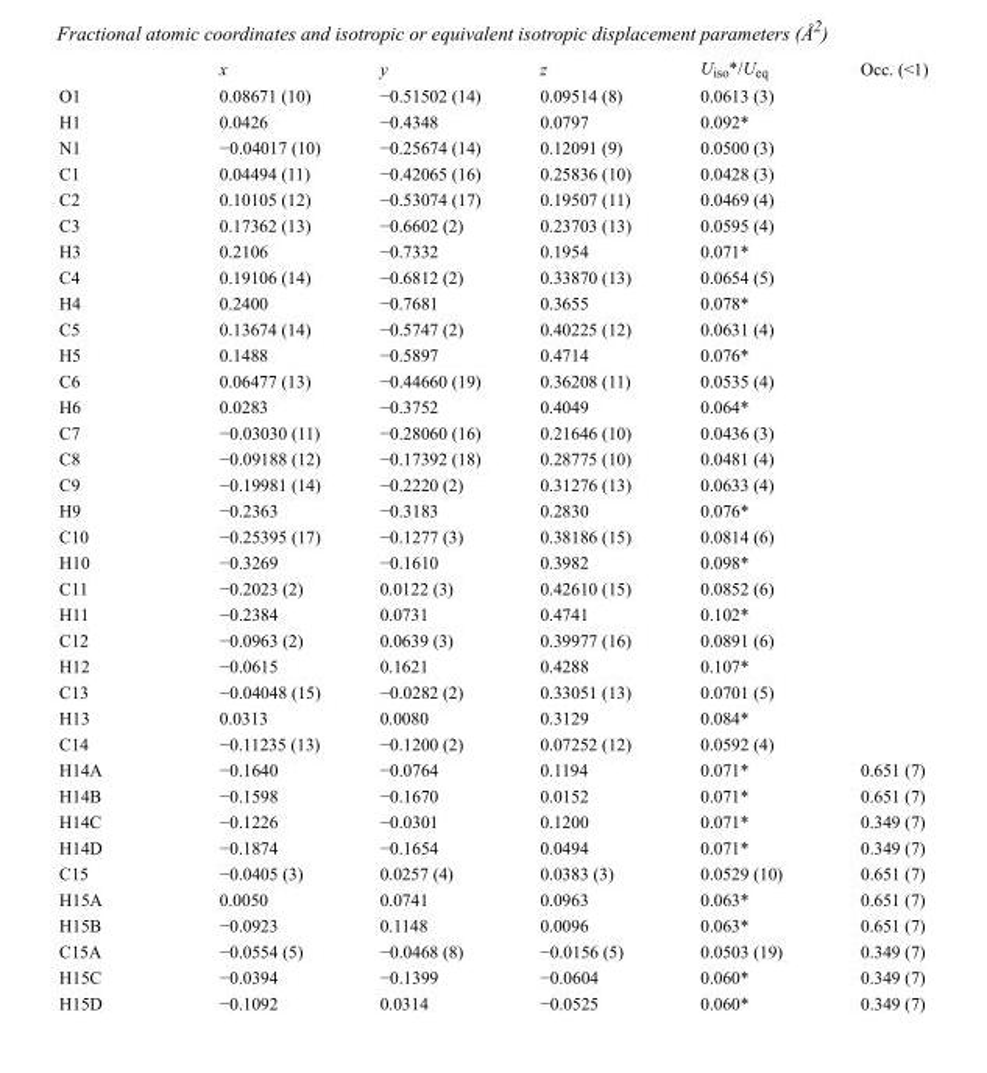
<table><thead><tr><td></td><td>x</td><td>y</td><td>z</td><td>U<sub>iso</sub>*/U<sub>eq</sub></td><td>Occ. (&lt;1)</td></tr></thead><tbody><tr><td>O1</td><td>0.08671 (10)</td><td>−0.51502 (14)</td><td>0.09514 (8)</td><td>0.0613 (3)</td><td></td></tr><tr><td>H1</td><td>0.0426</td><td>−0.4348</td><td>0.0797</td><td>0.092*</td><td></td></tr><tr><td>N1</td><td>−0.04017 (10)</td><td>−0.25674 (14)</td><td>0.12091 (9)</td><td>0.0500 (3)</td><td></td></tr><tr><td>C1</td><td>0.04494 (11)</td><td>−0.42065 (16)</td><td>0.25836 (10)</td><td>0.0428 (3)</td><td></td></tr><tr><td>C2</td><td>0.10105 (12)</td><td>−0.53074 (17)</td><td>0.19507 (11)</td><td>0.0469 (4)</td><td></td></tr><tr><td>C3</td><td>0.17362 (13)</td><td>−0.6602 (2)</td><td>0.23703 (13)</td><td>0.0595 (4)</td><td></td></tr><tr><td>H3</td><td>0.2106</td><td>−0.7332</td><td>0.1954</td><td>0.071*</td><td></td></tr><tr><td>C4</td><td>0.19106 (14)</td><td>−0.6812 (2)</td><td>0.33870 (13)</td><td>0.0654 (5)</td><td></td></tr><tr><td>H4</td><td>0.2400</td><td>−0.7681</td><td>0.3655</td><td>0.078*</td><td></td></tr><tr><td>C5</td><td>0.13674 (14)</td><td>−0.5747 (2)</td><td>0.40225 (12)</td><td>0.0631 (4)</td><td></td></tr><tr><td>H5</td><td>0.1488</td><td>−0.5897</td><td>0.4714</td><td>0.076*</td><td></td></tr><tr><td>C6</td><td>0.06477 (13)</td><td>−0.44660 (19)</td><td>0.36208 (11)</td><td>0.0535 (4)</td><td></td></tr><tr><td>H6</td><td>0.0283</td><td>−0.3752</td><td>0.4049</td><td>0.064*</td><td></td></tr><tr><td>C7</td><td>−0.03030 (11)</td><td>−0.28060 (16)</td><td>0.21646 (10)</td><td>0.0436 (3)</td><td></td></tr><tr><td>C8</td><td>−0.09188 (12)</td><td>−0.17392 (18)</td><td>0.28775 (10)</td><td>0.0481 (4)</td><td></td></tr><tr><td>C9</td><td>−0.19981 (14)</td><td>−0.2220 (2)</td><td>0.31276 (13)</td><td>0.0633 (4)</td><td></td></tr><tr><td>H9</td><td>−0.2363</td><td>−0.3183</td><td>0.2830</td><td>0.076*</td><td></td></tr><tr><td>C10</td><td>−0.25395 (17)</td><td>−0.1277 (3)</td><td>0.38186 (15)</td><td>0.0814 (6)</td><td></td></tr><tr><td>H10</td><td>−0.3269</td><td>−0.1610</td><td>0.3982</td><td>0.098*</td><td></td></tr><tr><td>C11</td><td>−0.2023 (2)</td><td>0.0122 (3)</td><td>0.42610 (15)</td><td>0.0852 (6)</td><td></td></tr><tr><td>H11</td><td>−0.2384</td><td>0.0731</td><td>0.4741</td><td>0.102*</td><td></td></tr><tr><td>C12</td><td>−0.0963 (2)</td><td>0.0639 (3)</td><td>0.39977 (16)</td><td>0.0891 (6)</td><td></td></tr><tr><td>H12</td><td>−0.0615</td><td>0.1621</td><td>0.4288</td><td>0.107*</td><td></td></tr><tr><td>C13</td><td>−0.04048 (15)</td><td>−0.0282 (2)</td><td>0.33051 (13)</td><td>0.0701 (5)</td><td></td></tr><tr><td>H13</td><td>0.0313</td><td>0.0080</td><td>0.3129</td><td>0.084*</td><td></td></tr><tr><td>C14</td><td>−0.11235 (13)</td><td>−0.1200 (2)</td><td>0.07252 (12)</td><td>0.0592 (4)</td><td></td></tr><tr><td>H14A</td><td>−0.1640</td><td>−0.0764</td><td>0.1194</td><td>0.071*</td><td>0.651 (7)</td></tr><tr><td>H14B</td><td>−0.1598</td><td>−0.1670</td><td>0.0152</td><td>0.071*</td><td>0.651 (7)</td></tr><tr><td>H14C</td><td>−0.1226</td><td>−0.0301</td><td>0.1200</td><td>0.071*</td><td>0.349 (7)</td></tr><tr><td>H14D</td><td>−0.1874</td><td>−0.1654</td><td>0.0494</td><td>0.071*</td><td>0.349 (7)</td></tr><tr><td>C15</td><td>−0.0405 (3)</td><td>0.0257 (4)</td><td>0.0383 (3)</td><td>0.0529 (10)</td><td>0.651 (7)</td></tr><tr><td>H15A</td><td>0.0050</td><td>0.0741</td><td>0.0963</td><td>0.063*</td><td>0.651 (7)</td></tr><tr><td>H15B</td><td>−0.0923</td><td>0.1148</td><td>0.0096</td><td>0.063*</td><td>0.651 (7)</td></tr><tr><td>C15A</td><td>−0.0554 (5)</td><td>−0.0468 (8)</td><td>−0.0156 (5)</td><td>0.0503 (19)</td><td>0.349 (7)</td></tr><tr><td>H15C</td><td>−0.0394</td><td>−0.1399</td><td>−0.0604</td><td>0.060*</td><td>0.349 (7)</td></tr><tr><td>H15D</td><td>−0.1092</td><td>0.0314</td><td>−0.0525</td><td>0.060*</td><td>0.349 (7)</td></tr></tbody></table>